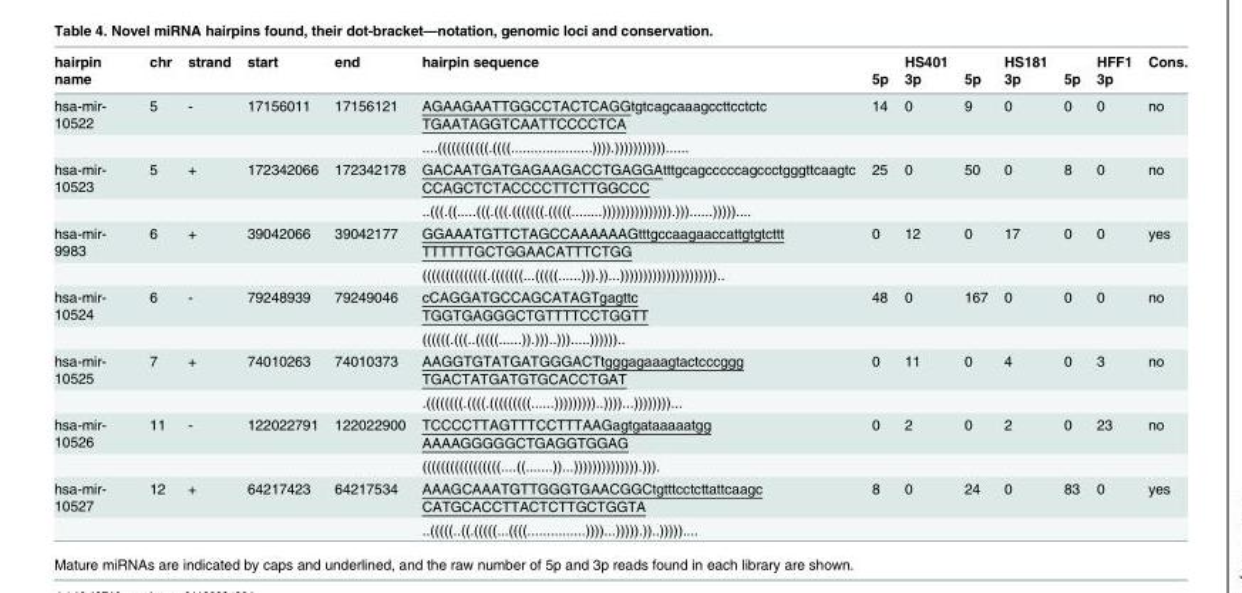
<table><thead><tr><td rowspan="2">hairpin name</td><td rowspan="2">chr</td><td rowspan="2">strand</td><td rowspan="2">start</td><td rowspan="2">end</td><td rowspan="2">hairpin sequence</td><td rowspan="2">5p</td><td rowspan="2">HS401 3p</td><td rowspan="2">5p</td><td rowspan="2">HS181 3p</td><td rowspan="2">5p</td><td rowspan="2">HFF1 3p</td><td rowspan="2">Cons.</td></tr><tr></tr></thead><tbody><tr><td rowspan="2">hsa-mir- 10522</td><td>5</td><td>-</td><td>17156011</td><td>17156121</td><td>AGAAGAATTGGCCTACTCAGGtgtcagcaaagccttcctctc TGAATAGGTCAATTCCCCTCA</td><td>14</td><td>0</td><td>9</td><td>0</td><td>0</td><td>0</td><td>no</td></tr><tr><td></td><td></td><td></td><td></td><td>....(((((((((((.((((.....................)))).)))))))))))......</td><td></td><td></td><td></td><td></td><td></td><td></td><td></td></tr><tr><td rowspan="2">hsa-mir- 10523</td><td>5</td><td>+</td><td>172342066</td><td>172342178</td><td>GACAATGATGAGAAGACCTGAGGAtttgcagcccccagccctgggttcaagtc CCAGCTCTACCCCTTCTTGGCCC</td><td>25</td><td>0</td><td>50</td><td>0</td><td>8</td><td>0</td><td>no</td></tr><tr><td></td><td></td><td></td><td></td><td>..(((.((.....(((.(((.(((((((.(((((........))))))))))))))).)))......)))))....</td><td></td><td></td><td></td><td></td><td></td><td></td><td></td></tr><tr><td rowspan="2">hsa-mir- 9983</td><td>6</td><td>+</td><td>39042066</td><td>39042177</td><td>GGAAATGTTCTAGCCAAAAAAGtttgccaagaaccattgtgtcttt TTTTTTGCTGGAACATTTCTGG</td><td>0</td><td>12</td><td>0</td><td>17</td><td>0</td><td>0</td><td>yes</td></tr><tr><td></td><td></td><td></td><td></td><td>((((((((((((((.(((((((...(((((......))).))...)))))))))))))))))))))..</td><td></td><td></td><td></td><td></td><td></td><td></td><td></td></tr><tr><td rowspan="2">hsa-mir- 10524</td><td>6</td><td>-</td><td>79248939</td><td>79249046</td><td>cCAGGATGCCAGCATAGTgagttc TGGTGAGGGCTGTTTTCCTGGTT</td><td>48</td><td>0</td><td>167</td><td>0</td><td>0</td><td>0</td><td>no</td></tr><tr><td></td><td></td><td></td><td></td><td>((((((.(((..(((((......)).)))..))).....))))))..</td><td></td><td></td><td></td><td></td><td></td><td></td><td></td></tr><tr><td rowspan="2">hsa-mir- 10525</td><td>7</td><td>+</td><td>74010263</td><td>74010373</td><td>AAGGTGTATGATGGGACTtgggagaaagtactcccggg TGACTATGATGTGCACCTGAT</td><td>0</td><td>11</td><td>0</td><td>4</td><td>0</td><td>3</td><td>no</td></tr><tr><td></td><td></td><td></td><td></td><td>.((((((((.((((.(((((((((......)))))))))..))))...))))))))...</td><td></td><td></td><td></td><td></td><td></td><td></td><td></td></tr><tr><td rowspan="2">hsa-mir- 10526</td><td>11</td><td>-</td><td>122022791</td><td>122022900</td><td>TCCCCTTAGTTTCCTTTAAGagtgataaaaatgg AAAAGGGGGCTGAGGTGGAG</td><td>0</td><td>2</td><td>0</td><td>2</td><td>0</td><td>23</td><td>no</td></tr><tr><td></td><td></td><td></td><td></td><td>(((((((((((((((((....((.......))...)))))))))))))).))).</td><td></td><td></td><td></td><td></td><td></td><td></td><td></td></tr><tr><td rowspan="2">hsa-mir- 10527</td><td>12</td><td>+</td><td>64217423</td><td>64217534</td><td>AAAGCAAATGTTGGGTGAACGGCtgtttcctcttattcaagc CATGCACCTTACTCTTGCTGGTA</td><td>8</td><td>0</td><td>24</td><td>0</td><td>83</td><td>0</td><td>yes</td></tr><tr><td></td><td></td><td></td><td></td><td>..(((((..((.(((((...((((...............))))...))))).))..)))))....</td><td></td><td></td><td></td><td></td><td></td><td></td><td></td></tr></tbody></table>